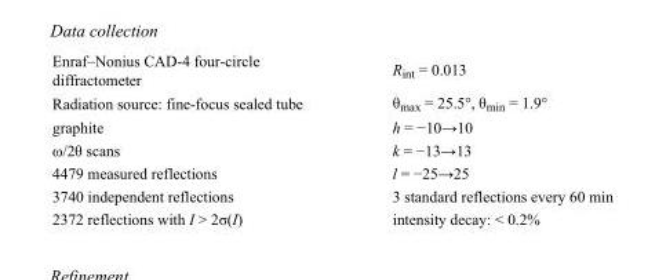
<table><tbody><tr><td>Enraf–Nonius CAD-4 four-circle diffractometer</td><td>R<sub>int</sub> = 0.013</td></tr><tr><td>Radiation source: fine-focus sealed tube</td><td>θ<sub>max</sub> = 25.5°, θ<sub>min</sub> = 1.9°</td></tr><tr><td>graphite</td><td>h = −10→10</td></tr><tr><td>ω/2θ scans</td><td>k = −13→13</td></tr><tr><td>4479 measured reflections</td><td>l = −25→25</td></tr><tr><td>3740 independent reflections</td><td>3 standard reflections every 60 min</td></tr><tr><td>2372 reflections with I &gt; 2σ(I)</td><td>intensity decay: &lt; 0.2%</td></tr></tbody></table>